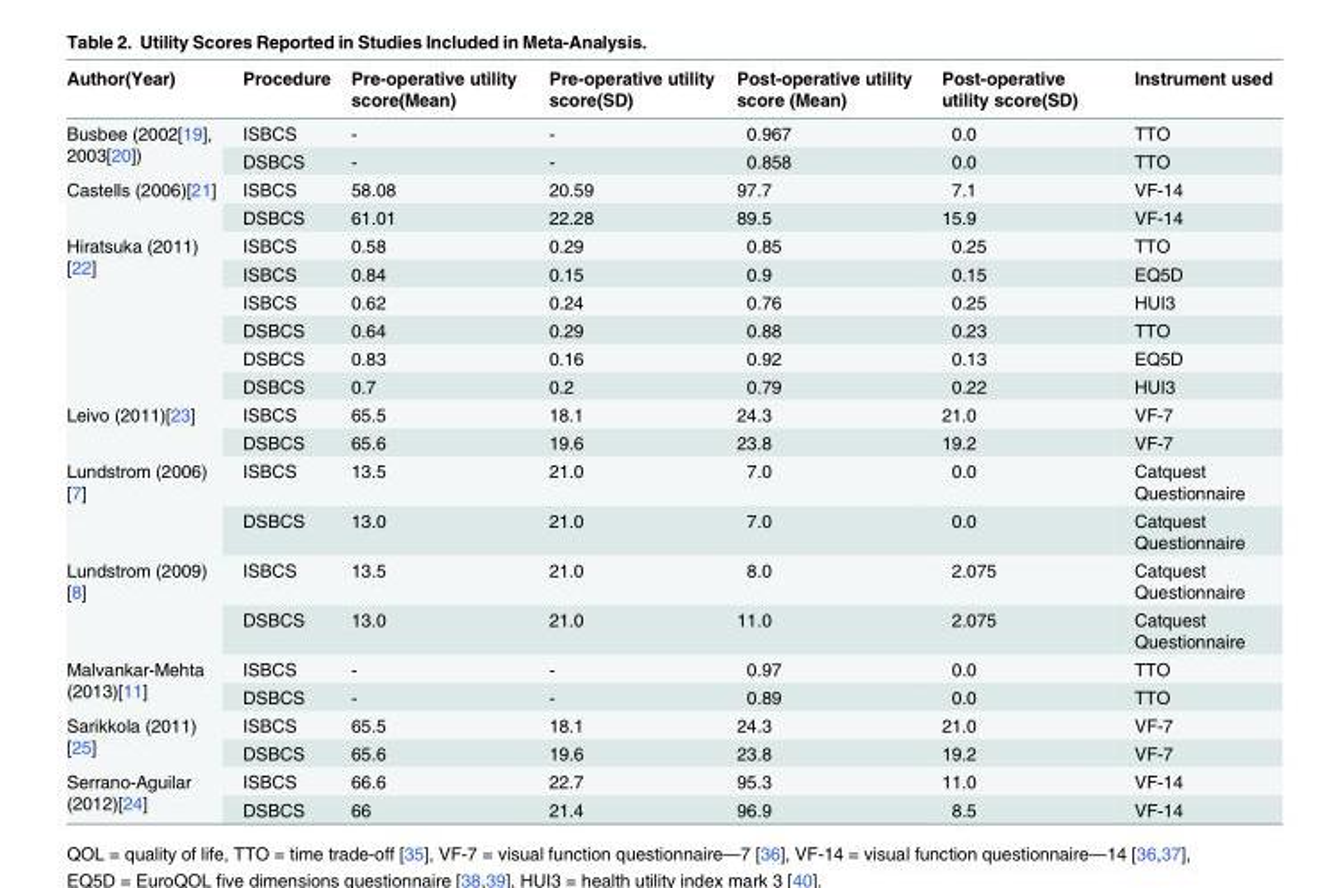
<table><thead><tr><td>Author(Year)</td><td>Procedure</td><td>Pre-operative utility score(Mean)</td><td>Pre-operative utility score(SD)</td><td>Post-operative utility score (Mean)</td><td>Post-operative utility score(SD)</td><td>Instrument used</td></tr></thead><tbody><tr><td rowspan="2">Busbee (2002[19], 2003[20])</td><td>ISBCS</td><td>-</td><td>-</td><td>0.967</td><td>0.0</td><td>TTO</td></tr><tr><td>DSBCS</td><td>-</td><td>-</td><td>0.858</td><td>0.0</td><td>TTO</td></tr><tr><td rowspan="2">Castells (2006)[21]</td><td>ISBCS</td><td>58.08</td><td>20.59</td><td>97.7</td><td>7.1</td><td>VF-14</td></tr><tr><td>DSBCS</td><td>61.01</td><td>22.28</td><td>89.5</td><td>15.9</td><td>VF-14</td></tr><tr><td rowspan="6">Hiratsuka (2011) [22]</td><td>ISBCS</td><td>0.58</td><td>0.29</td><td>0.85</td><td>0.25</td><td>TTO</td></tr><tr><td>ISBCS</td><td>0.84</td><td>0.15</td><td>0.9</td><td>0.15</td><td>EQ5D</td></tr><tr><td>ISBCS</td><td>0.62</td><td>0.24</td><td>0.76</td><td>0.25</td><td>HUI3</td></tr><tr><td>DSBCS</td><td>0.64</td><td>0.29</td><td>0.88</td><td>0.23</td><td>TTO</td></tr><tr><td>DSBCS</td><td>0.83</td><td>0.16</td><td>0.92</td><td>0.13</td><td>EQ5D</td></tr><tr><td>DSBCS</td><td>0.7</td><td>0.2</td><td>0.79</td><td>0.22</td><td>HUI3</td></tr><tr><td rowspan="2">Leivo (2011)[23]</td><td>ISBCS</td><td>65.5</td><td>18.1</td><td>24.3</td><td>21.0</td><td>VF-7</td></tr><tr><td>DSBCS</td><td>65.6</td><td>19.6</td><td>23.8</td><td>19.2</td><td>VF-7</td></tr><tr><td rowspan="2">Lundstrom (2006) [7]</td><td>ISBCS</td><td>13.5</td><td>21.0</td><td>7.0</td><td>0.0</td><td>Catquest Questionnaire</td></tr><tr><td>DSBCS</td><td>13.0</td><td>21.0</td><td>7.0</td><td>0.0</td><td>Catquest Questionnaire</td></tr><tr><td rowspan="2">Lundstrom (2009) [8]</td><td>ISBCS</td><td>13.5</td><td>21.0</td><td>8.0</td><td>2.075</td><td>Catquest Questionnaire</td></tr><tr><td>DSBCS</td><td>13.0</td><td>21.0</td><td>11.0</td><td>2.075</td><td>Catquest Questionnaire</td></tr><tr><td rowspan="2">Malvankar-Mehta (2013)[11]</td><td>ISBCS</td><td>-</td><td>-</td><td>0.97</td><td>0.0</td><td>TTO</td></tr><tr><td>DSBCS</td><td>-</td><td>-</td><td>0.89</td><td>0.0</td><td>TTO</td></tr><tr><td rowspan="2">Sarikkola (2011) [25]</td><td>ISBCS</td><td>65.5</td><td>18.1</td><td>24.3</td><td>21.0</td><td>VF-7</td></tr><tr><td>DSBCS</td><td>65.6</td><td>19.6</td><td>23.8</td><td>19.2</td><td>VF-7</td></tr><tr><td rowspan="2">Serrano-Aguilar (2012)[24]</td><td>ISBCS</td><td>66.6</td><td>22.7</td><td>95.3</td><td>11.0</td><td>VF-14</td></tr><tr><td>DSBCS</td><td>66</td><td>21.4</td><td>96.9</td><td>8.5</td><td>VF-14</td></tr></tbody></table>